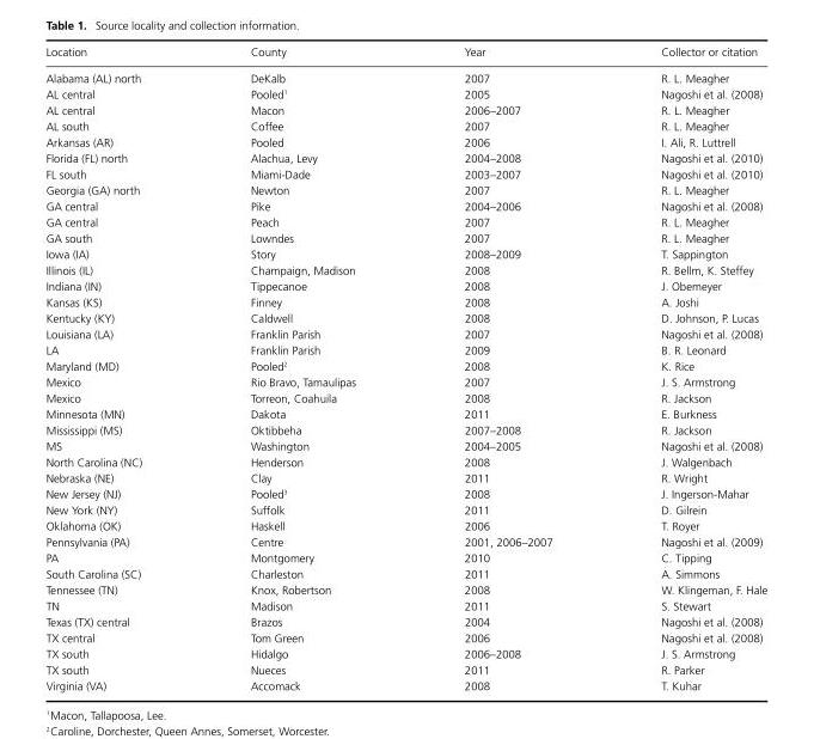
<table><thead><tr><td>Location</td><td>County</td><td>Year</td><td>Collector or citation</td></tr></thead><tbody><tr><td>Alabama (AL) north</td><td>DeKalb</td><td>2007</td><td>R. L. Meagher</td></tr><tr><td>AL central</td><td>Pooled<sup>1</sup></td><td>2005</td><td>Nagoshi et al. (2008)</td></tr><tr><td>AL central</td><td>Macon</td><td>2006–2007</td><td>R. L. Meagher</td></tr><tr><td>AL south</td><td>Coffee</td><td>2007</td><td>R. L. Meagher</td></tr><tr><td>Arkansas (AR)</td><td>Pooled</td><td>2006</td><td>I. Ali, R. Luttrell</td></tr><tr><td>Florida (FL) north</td><td>Alachua, Levy</td><td>2004–2008</td><td>Nagoshi et al. (2010)</td></tr><tr><td>FL south</td><td>Miami-Dade</td><td>2003–2007</td><td>Nagoshi et al. (2010)</td></tr><tr><td>Georgia (GA) north</td><td>Newton</td><td>2007</td><td>R. L. Meagher</td></tr><tr><td>GA central</td><td>Pike</td><td>2004–2006</td><td>Nagoshi et al. (2008)</td></tr><tr><td>GA central</td><td>Peach</td><td>2007</td><td>R. L. Meagher</td></tr><tr><td>GA south</td><td>Lowndes</td><td>2007</td><td>R. L. Meagher</td></tr><tr><td>Iowa (IA)</td><td>Story</td><td>2008–2009</td><td>T. Sappington</td></tr><tr><td>Illinois (IL)</td><td>Champaign, Madison</td><td>2008</td><td>R. Bellm, K. Steffey</td></tr><tr><td>Indiana (IN)</td><td>Tippecanoe</td><td>2008</td><td>J. Obemeyer</td></tr><tr><td>Kansas (KS)</td><td>Finney</td><td>2008</td><td>A. Joshi</td></tr><tr><td>Kentucky (KY)</td><td>Caldwell</td><td>2008</td><td>D. Johnson, P. Lucas</td></tr><tr><td>Louisiana (LA)</td><td>Franklin Parish</td><td>2007</td><td>Nagoshi et al. (2008)</td></tr><tr><td>LA</td><td>Franklin Parish</td><td>2009</td><td>B. R. Leonard</td></tr><tr><td>Maryland (MD)</td><td>Pooled<sup>2</sup></td><td>2008</td><td>K. Rice</td></tr><tr><td>Mexico</td><td>Rio Bravo, Tamaulipas</td><td>2007</td><td>J. S. Armstrong</td></tr><tr><td>Mexico</td><td>Torreon, Coahuila</td><td>2008</td><td>R. Jackson</td></tr><tr><td>Minnesota (MN)</td><td>Dakota</td><td>2011</td><td>E. Burkness</td></tr><tr><td>Mississippi (MS)</td><td>Oktibbeha</td><td>2007–2008</td><td>R. Jackson</td></tr><tr><td>MS</td><td>Washington</td><td>2004–2005</td><td>Nagoshi et al. (2008)</td></tr><tr><td>North Carolina (NC)</td><td>Henderson</td><td>2008</td><td>J. Walgenbach</td></tr><tr><td>Nebraska (NE)</td><td>Clay</td><td>2011</td><td>R. Wright</td></tr><tr><td>New Jersey (NJ)</td><td>Pooled<sup>3</sup></td><td>2008</td><td>J. Ingerson-Mahar</td></tr><tr><td>New York (NY)</td><td>Suffolk</td><td>2011</td><td>D. Gilrein</td></tr><tr><td>Oklahoma (OK)</td><td>Haskell</td><td>2006</td><td>T. Royer</td></tr><tr><td>Pennsylvania (PA)</td><td>Centre</td><td>2001, 2006–2007</td><td>Nagoshi et al. (2009)</td></tr><tr><td>PA</td><td>Montgomery</td><td>2010</td><td>C. Tipping</td></tr><tr><td>South Carolina (SC)</td><td>Charleston</td><td>2011</td><td>A. Simmons</td></tr><tr><td>Tennessee (TN)</td><td>Knox, Robertson</td><td>2008</td><td>W. Klingeman, F. Hale</td></tr><tr><td>TN</td><td>Madison</td><td>2011</td><td>S. Stewart</td></tr><tr><td>Texas (TX) central</td><td>Brazos</td><td>2004</td><td>Nagoshi et al. (2008)</td></tr><tr><td>TX central</td><td>Tom Green</td><td>2006</td><td>Nagoshi et al. (2008)</td></tr><tr><td>TX south</td><td>Hidalgo</td><td>2006–2008</td><td>J. S. Armstrong</td></tr><tr><td>TX south</td><td>Nueces</td><td>2011</td><td>R. Parker</td></tr><tr><td>Virginia (VA)</td><td>Accomack</td><td>2008</td><td>T. Kuhar</td></tr></tbody></table>